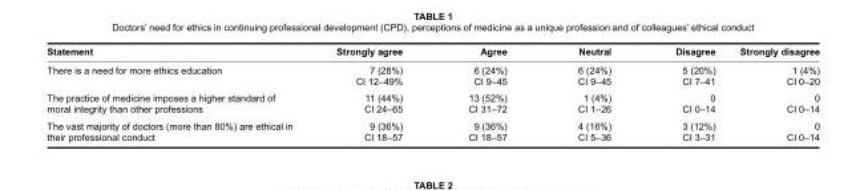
<table><thead><tr><td>Statement</td><td>Strongly agree</td><td>Agree</td><td>Neutral</td><td>Disagree</td><td>Strongly disagree</td></tr></thead><tbody><tr><td>There is a need for more ethics education</td><td>7 (28%) CI 12–49%</td><td>6 (24%) CI 9–45</td><td>6 (24%) CI 9–45</td><td>5 (20%) CI 7–41</td><td>1 (4%) CI 0–20</td></tr><tr><td>The practice of medicine imposes a higher standard of moral integrity than other professions</td><td>11 (44%) CI 24–65</td><td>13 (52%) CI 31–72</td><td>1 (4%) CI 1–26</td><td>0 CI 0–14</td><td>0 CI 0–14</td></tr><tr><td>The vast majority of doctors (more than 80%) are ethical in their professional conduct</td><td>9 (36%) CI 18–57</td><td>9 (36%) CI 18–57</td><td>4 (16%) CI 5–36</td><td>3 (12%) CI 3–31</td><td>0 CI 0–14</td></tr></tbody></table>